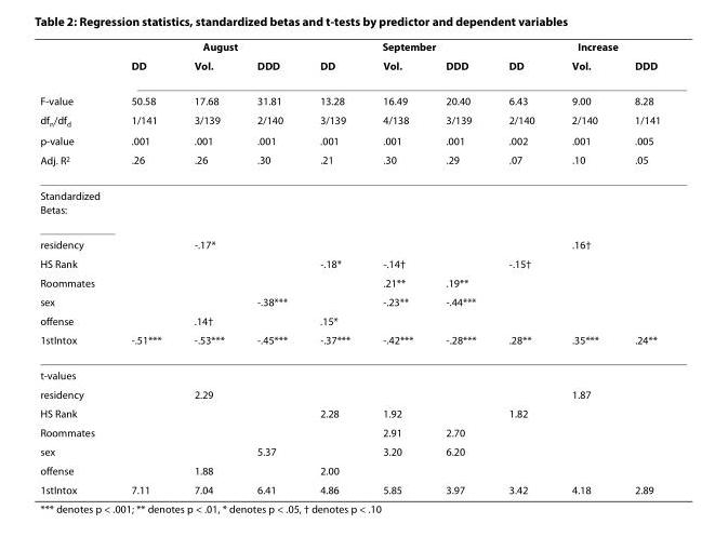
<table><thead><tr><td rowspan="6">F-value df<sub>n</sub>/df<sub>d</sub> p-value Adj. R<sup>2</sup></td><td colspan="3">August</td><td colspan="3">September</td><td colspan="3">Increase</td></tr><tr><td rowspan="5">DD 50.58 1/141 .001 .26</td><td rowspan="5">Vol. 17.68 3/139 .001 .26</td><td rowspan="5">DDD 31.81 2/140 .001 .30</td><td rowspan="5">DD 13.28 3/139 .001 .21</td><td rowspan="5">Vol. 16.49 4/138 .001 .30</td><td rowspan="5">DDD 20.40 3/139 .001 .29</td><td rowspan="5">DD 6.43 2/140 .002 .07</td><td rowspan="5">Vol. 9.00 2/140 .001 .10</td><td rowspan="5">DDD 8.28 1/141 .005 .05</td></tr><tr></tr><tr></tr><tr></tr><tr></tr></thead><tbody><tr><td colspan="10">Standardized Betas:</td></tr><tr><td>residency</td><td></td><td>-.17*</td><td></td><td></td><td></td><td></td><td></td><td>.16†</td><td></td></tr><tr><td>HS Rank</td><td></td><td></td><td></td><td>-.18*</td><td>-.14†</td><td></td><td>-.15†</td><td></td><td></td></tr><tr><td>Roommates</td><td></td><td></td><td></td><td></td><td>.21**</td><td>.19**</td><td></td><td></td><td></td></tr><tr><td>sex</td><td></td><td></td><td>-.38***</td><td></td><td>-.23**</td><td>-.44***</td><td></td><td></td><td></td></tr><tr><td>offense</td><td></td><td>.14†</td><td></td><td>.15*</td><td></td><td></td><td></td><td></td><td></td></tr><tr><td>1stIntox</td><td>-.51***</td><td>-.53***</td><td>-.45***</td><td>-.37***</td><td>-.42***</td><td>-.28***</td><td>.28**</td><td>.35***</td><td>.24**</td></tr><tr><td colspan="10">t-values</td></tr><tr><td>residency</td><td></td><td>2.29</td><td></td><td></td><td></td><td></td><td></td><td>1.87</td><td></td></tr><tr><td>HS Rank</td><td></td><td></td><td></td><td>2.28</td><td>1.92</td><td></td><td>1.82</td><td></td><td></td></tr><tr><td>Roommates</td><td></td><td></td><td></td><td></td><td>2.91</td><td>2.70</td><td></td><td></td><td></td></tr><tr><td>sex</td><td></td><td></td><td>5.37</td><td></td><td>3.20</td><td>6.20</td><td></td><td></td><td></td></tr><tr><td>offense</td><td></td><td>1.88</td><td></td><td>2.00</td><td></td><td></td><td></td><td></td><td></td></tr><tr><td>1stIntox</td><td>7.11</td><td>7.04</td><td>6.41</td><td>4.86</td><td>5.85</td><td>3.97</td><td>3.42</td><td>4.18</td><td>2.89</td></tr></tbody></table>